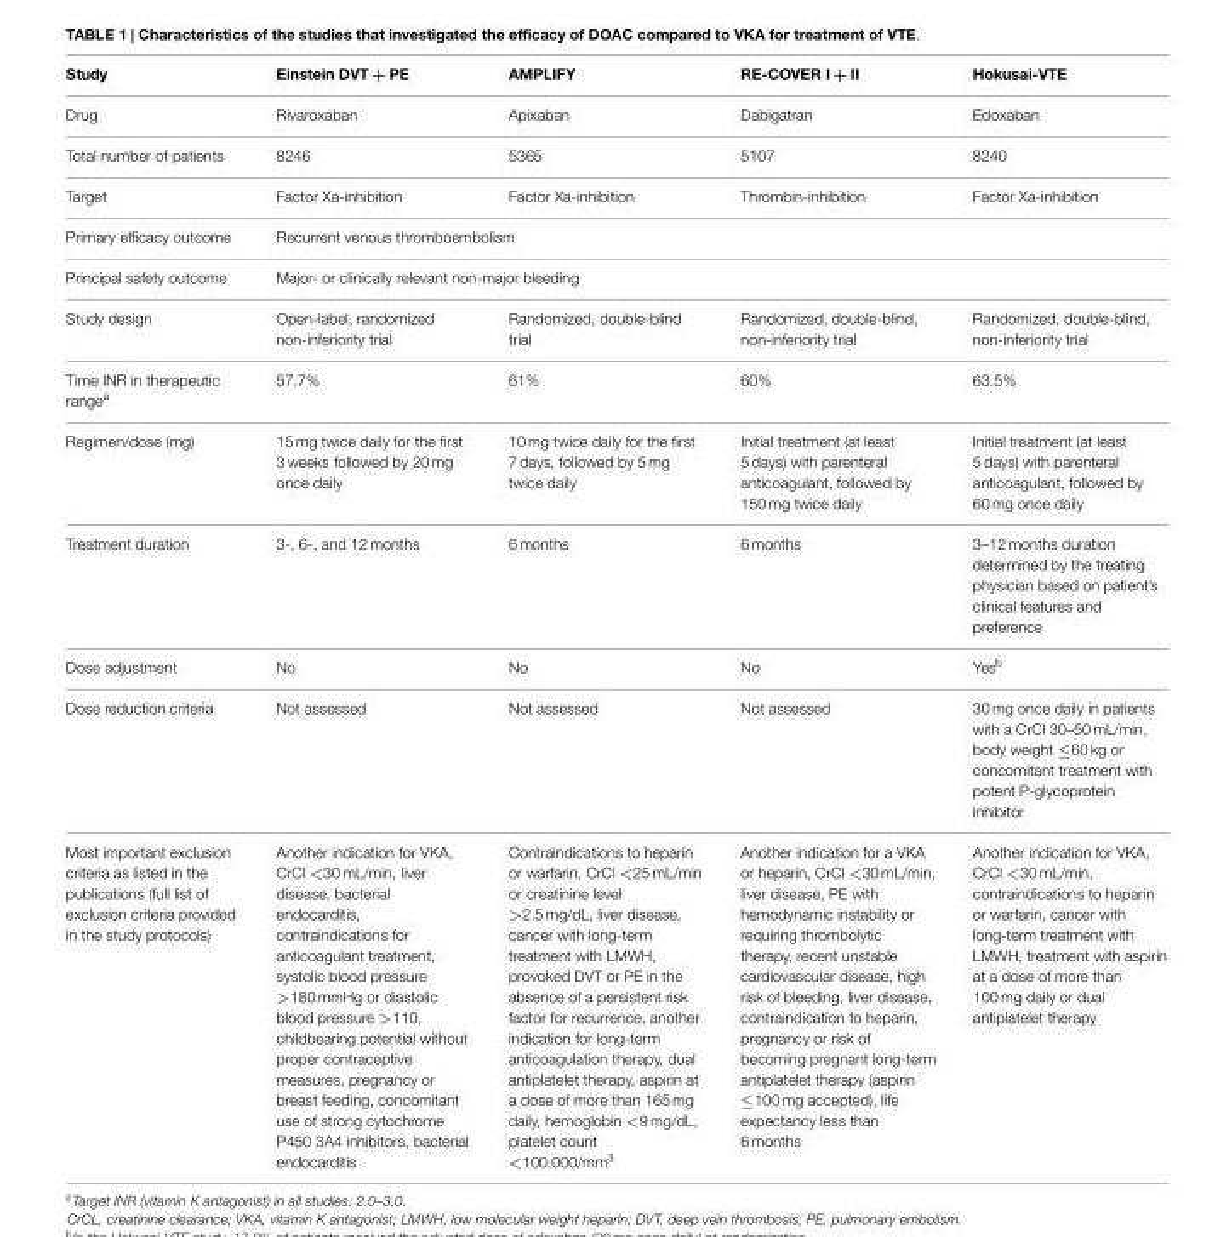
<table><thead><tr><td>Study</td><td>Einstein DVT + PE</td><td>AMPLIFY</td><td>RE-COVER I + II</td><td>Hokusai-VTE</td></tr></thead><tbody><tr><td>Drug</td><td>Rivaroxaban</td><td>Apixaban</td><td>Dabigatran</td><td>Edoxaban</td></tr><tr><td>Total number of patients</td><td>8246</td><td>5365</td><td>5107</td><td>8240</td></tr><tr><td>Target</td><td>Factor Xa-inhibition</td><td>Factor Xa-inhibition</td><td>Thrombin-inhibition</td><td>Factor Xa-inhibition</td></tr><tr><td>Primary efficacy outcome</td><td colspan="4">Recurrent venous thromboembolism</td></tr><tr><td>Principal safety outcome</td><td colspan="4">Major- or clinically relevant non-major bleeding</td></tr><tr><td>Study design</td><td>Open-label, randomized non-inferiority trial</td><td>Randomized, double-blind trial</td><td>Randomized, double-blind, non-inferiority trial</td><td>Randomized, double-blind, non-inferiority trial</td></tr><tr><td>Time INR in therapeutic range<sup>a</sup></td><td>57.7%</td><td>61%</td><td>60%</td><td>63.5%</td></tr><tr><td>Regimen/dose (mg)</td><td>15 mg twice daily for the first 3 weeks followed by 20 mg once daily</td><td>10 mg twice daily for the first 7 days, followed by 5 mg twice daily</td><td>Initial treatment (at least 5 days) with parenteral anticoagulant, followed by 150 mg twice daily</td><td>Initial treatment (at least 5 days) with parenteral anticoagulant, followed by 60 mg once daily</td></tr><tr><td>Treatment duration</td><td>3-, 6-, and 12 months</td><td>6 months</td><td>6 months</td><td>3–12 months duration determined by the treating physician based on patient’s clinical features and preference</td></tr><tr><td>Dose adjustment</td><td>No</td><td>No</td><td>No</td><td>Yes<sup>b</sup></td></tr><tr><td>Dose reduction criteria</td><td>Not assessed</td><td>Not assessed</td><td>Not assessed</td><td>30 mg once daily in patients with a CrCl 30–50 mL/min, body weight ≤60 kg or concomitant treatment with potent P-glycoprotein inhibitor</td></tr><tr><td>Most important exclusion criteria as listed in the publications (full list of exclusion criteria provided in the study protocols)</td><td>Another indication for VKA, CrCl &lt;30 mL/min, liver disease, bacterial endocarditis, contraindications for anticoagulant treatment, systolic blood pressure &gt;180 mmHg or diastolic blood pressure &gt;110, childbearing potential without proper contraceptive measures, pregnancy or breast feeding, concomitant use of strong cytochrome P450 3A4 inhibitors, bacterial endocarditis</td><td>Contraindications to heparin or warfarin, CrCl &lt;25 mL/min or creatinine level &gt;2.5 mg/dL, liver disease, cancer with long-term treatment with LMWH, provoked DVT or PE in the absence of a persistent risk factor for recurrence, another indication for long-term anticoagulation therapy, dual antiplatelet therapy, aspirin at a dose of more than 165 mg daily, hemoglobin &lt;9 mg/dL, platelet count &lt;100.000/mm<sup>3</sup></td><td>Another indication for a VKA or heparin, CrCl &lt;30 mL/min, liver disease, PE with hemodynamic instability or requiring thrombolytic therapy, recent unstable cardiovascular disease, high risk of bleeding, liver disease, contraindication to heparin, pregnancy or risk of becoming pregnant long-term antiplatelet therapy (aspirin ≤100 mg accepted), life expectancy less than 6 months</td><td>Another indication for VKA, CrCl &lt;30 mL/min, contraindications to heparin or warfarin, cancer with long-term treatment with LMWH, treatment with aspirin at a dose of more than 100 mg daily or dual antiplatelet therapy</td></tr></tbody></table>